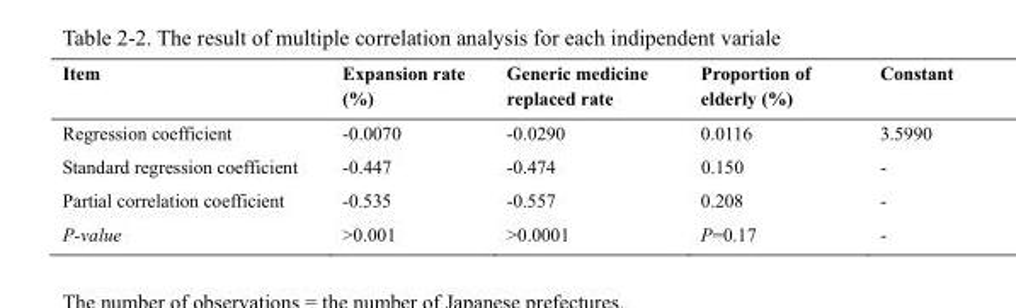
<table><thead><tr><td>Item</td><td>Expansion rate (%)</td><td>Generic medicine replaced rate</td><td>Proportion of elderly (%)</td><td>Constant</td></tr></thead><tbody><tr><td>Regression coefficient</td><td>-0.0070</td><td>-0.0290</td><td>0.0116</td><td>3.5990</td></tr><tr><td>Standard regression coefficient</td><td>-0.447</td><td>-0.474</td><td>0.150</td><td>-</td></tr><tr><td>Partial correlation coefficient</td><td>-0.535</td><td>-0.557</td><td>0.208</td><td>-</td></tr><tr><td>P-value</td><td>&gt;0.001</td><td>&gt;0.0001</td><td>P=0.17</td><td>-</td></tr></tbody></table>